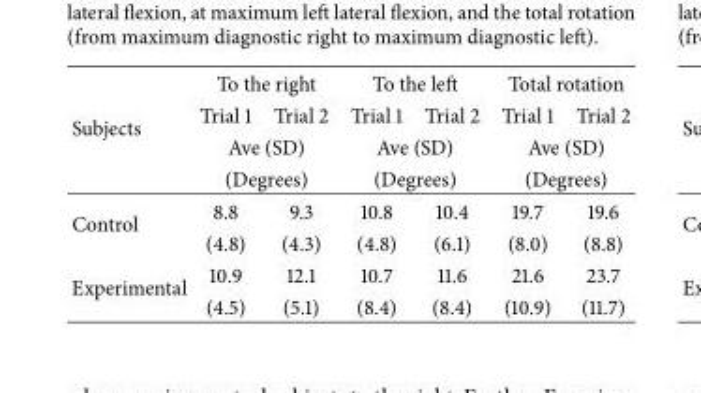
<table><thead><tr><td rowspan="4">Subjects</td><td colspan="2">To the right</td><td colspan="2">To the left</td><td colspan="2">Total rotation</td></tr><tr><td>Trial 1</td><td>Trial 2</td><td>Trial 1</td><td>Trial 2</td><td>Trial 1</td><td>Trial 2</td></tr><tr><td rowspan="2" colspan="2">Ave (SD) (Degrees)</td><td rowspan="2" colspan="2">Ave (SD) (Degrees)</td><td rowspan="2" colspan="2">Ave (SD) (Degrees)</td></tr><tr></tr></thead><tbody><tr><td rowspan="2">Control</td><td>8.8</td><td>9.3</td><td>10.8</td><td>10.4</td><td>19.7</td><td>19.6</td></tr><tr><td>(4.8)</td><td>(4.3)</td><td>(4.8)</td><td>(6.1)</td><td>(8.0)</td><td>(8.8)</td></tr><tr><td rowspan="2">Experimental</td><td>10.9</td><td>12.1</td><td>10.7</td><td>11.6</td><td>21.6</td><td>23.7</td></tr><tr><td>(4.5)</td><td>(5.1)</td><td>(8.4)</td><td>(8.4)</td><td>(10.9)</td><td>(11.7)</td></tr></tbody></table>